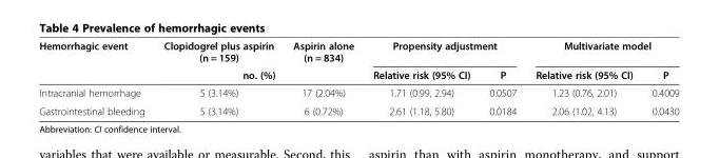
<table><thead><tr><td rowspan="2">Hemorrhagic event</td><td>Clopidogrel plus aspirin (n = 159)</td><td>Aspirin alone (n = 834)</td><td colspan="2">Propensity adjustment</td><td colspan="2">Multivariate model</td></tr><tr><td colspan="2">no. (%)</td><td>Relative risk (95% CI)</td><td>P</td><td>Relative risk (95% CI)</td><td>P</td></tr></thead><tbody><tr><td>Intracranial hemorrhage</td><td>5 (3.14%)</td><td>17 (2.04%)</td><td>1.71 (0.99, 2.94)</td><td>0.0507</td><td>1.23 (0.76, 2.01)</td><td>0.4009</td></tr><tr><td>Gastrointestinal bleeding</td><td>5 (3.14%)</td><td>6 (0.72%)</td><td>2.61 (1.18, 5.80)</td><td>0.0184</td><td>2.06 (1.02, 4.13)</td><td>0.0430</td></tr></tbody></table>